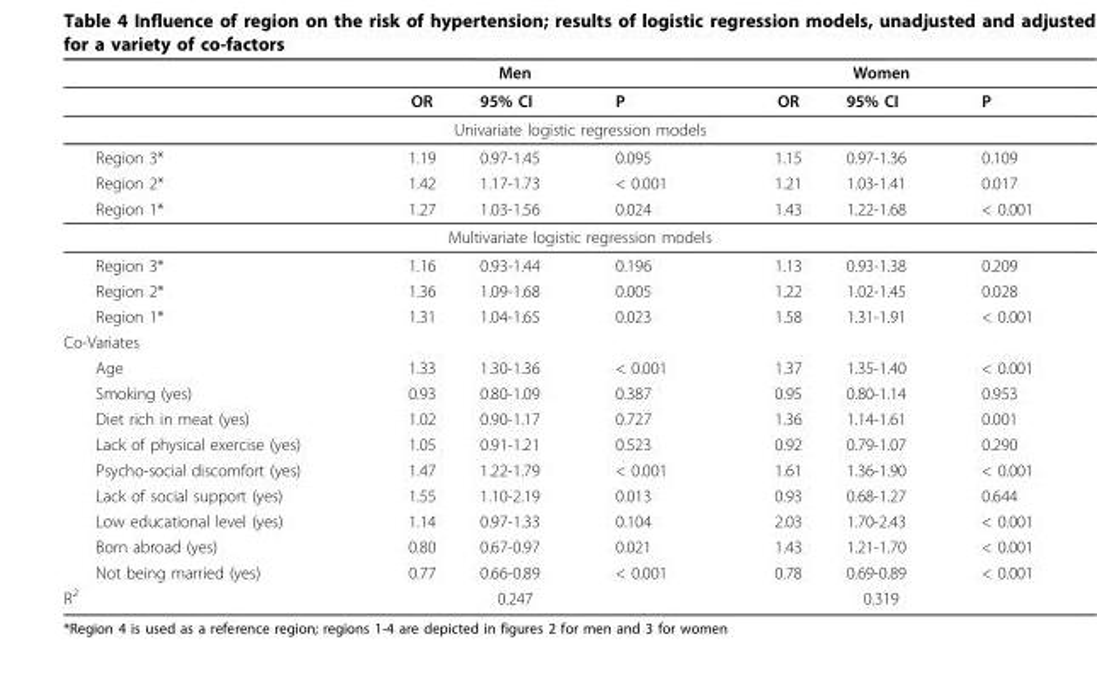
<table><thead><tr><td rowspan="2"></td><td colspan="3">Men</td><td colspan="3">Women</td></tr><tr><td>OR</td><td>95% CI</td><td>P</td><td>OR</td><td>95% CI</td><td>P</td></tr></thead><tbody><tr><td colspan="7">Univariate logistic regression models</td></tr><tr><td>Region 3*</td><td>1.19</td><td>0.97-1.45</td><td>0.095</td><td>1.15</td><td>0.97-1.36</td><td>0.109</td></tr><tr><td>Region 2*</td><td>1.42</td><td>1.17-1.73</td><td>&lt; 0.001</td><td>1.21</td><td>1.03-1.41</td><td>0.017</td></tr><tr><td>Region 1*</td><td>1.27</td><td>1.03-1.56</td><td>0.024</td><td>1.43</td><td>1.22-1.68</td><td>&lt; 0.001</td></tr><tr><td colspan="7">Multivariate logistic regression models</td></tr><tr><td>Region 3*</td><td>1.16</td><td>0.93-1.44</td><td>0.196</td><td>1.13</td><td>0.93-1.38</td><td>0.209</td></tr><tr><td>Region 2*</td><td>1.36</td><td>1.09-1.68</td><td>0.005</td><td>1.22</td><td>1.02-1.45</td><td>0.028</td></tr><tr><td>Region 1*</td><td>1.31</td><td>1.04-1.65</td><td>0.023</td><td>1.58</td><td>1.31-1.91</td><td>&lt; 0.001</td></tr><tr><td colspan="7">Co-Variates</td></tr><tr><td>Age</td><td>1.33</td><td>1.30-1.36</td><td>&lt; 0.001</td><td>1.37</td><td>1.35-1.40</td><td>&lt; 0.001</td></tr><tr><td>Smoking (yes)</td><td>0.93</td><td>0.80-1.09</td><td>0.387</td><td>0.95</td><td>0.80-1.14</td><td>0.953</td></tr><tr><td>Diet rich in meat (yes)</td><td>1.02</td><td>0.90-1.17</td><td>0.727</td><td>1.36</td><td>1.14-1.61</td><td>0.001</td></tr><tr><td>Lack of physical exercise (yes)</td><td>1.05</td><td>0.91-1.21</td><td>0.523</td><td>0.92</td><td>0.79-1.07</td><td>0.290</td></tr><tr><td>Psycho-social discomfort (yes)</td><td>1.47</td><td>1.22-1.79</td><td>&lt; 0.001</td><td>1.61</td><td>1.36-1.90</td><td>&lt; 0.001</td></tr><tr><td>Lack of social support (yes)</td><td>1.55</td><td>1.10-2.19</td><td>0.013</td><td>0.93</td><td>0.68-1.27</td><td>0.644</td></tr><tr><td>Low educational level (yes)</td><td>1.14</td><td>0.97-1.33</td><td>0.104</td><td>2.03</td><td>1.70-2.43</td><td>&lt; 0.001</td></tr><tr><td>Born abroad (yes)</td><td>0.80</td><td>0.67-0.97</td><td>0.021</td><td>1.43</td><td>1.21-1.70</td><td>&lt; 0.001</td></tr><tr><td>Not being married (yes)</td><td>0.77</td><td>0.66-0.89</td><td>&lt; 0.001</td><td>0.78</td><td>0.69-0.89</td><td>&lt; 0.001</td></tr><tr><td>R<sup>2</sup></td><td colspan="3">0.247</td><td colspan="3">0.319</td></tr></tbody></table>